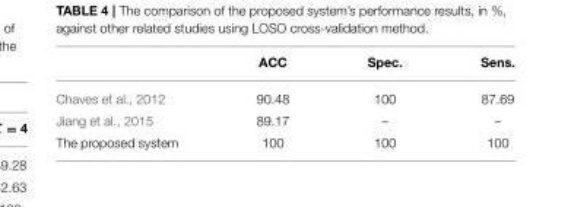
<table><thead><tr><td></td><td>ACC</td><td>Spec.</td><td>Sens.</td></tr></thead><tbody><tr><td>Chaves et al., 2012</td><td>90.48</td><td>100</td><td>87.69</td></tr><tr><td>Jiang et al., 2015</td><td>89.17</td><td>–</td><td>–</td></tr><tr><td>The proposed system</td><td>100</td><td>100</td><td>100</td></tr></tbody></table>